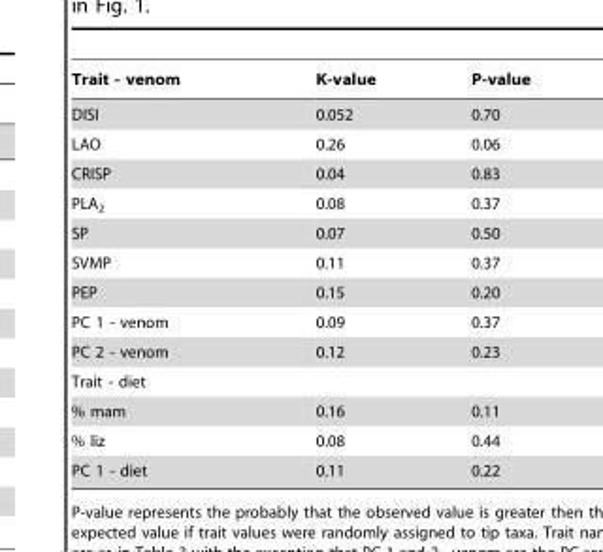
<table><thead><tr><td>Trait - venom</td><td>K-value</td><td>P-value</td></tr></thead><tbody><tr><td>DISI</td><td>0.052</td><td>0.70</td></tr><tr><td>LAO</td><td>0.26</td><td>0.06</td></tr><tr><td>CRISP</td><td>0.04</td><td>0.83</td></tr><tr><td>PLA<sub>2</sub></td><td>0.08</td><td>0.37</td></tr><tr><td>SP</td><td>0.07</td><td>0.50</td></tr><tr><td>SVMP</td><td>0.11</td><td>0.37</td></tr><tr><td>PEP</td><td>0.15</td><td>0.20</td></tr><tr><td>PC 1 - venom</td><td>0.09</td><td>0.37</td></tr><tr><td>PC 2 - venom</td><td>0.12</td><td>0.23</td></tr><tr><td colspan="3">Trait - diet</td></tr><tr><td>% mam</td><td>0.16</td><td>0.11</td></tr><tr><td>% liz</td><td>0.08</td><td>0.44</td></tr><tr><td>PC 1 - diet</td><td>0.11</td><td>0.22</td></tr></tbody></table>